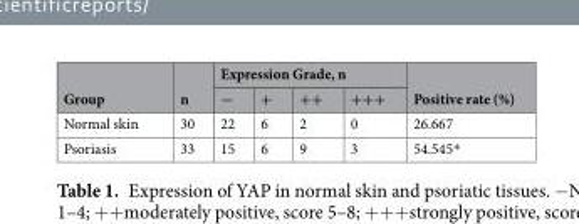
<table><thead><tr><td rowspan="2">Group</td><td rowspan="2">n</td><td colspan="4">Expression Grade, n</td><td rowspan="2">Positive rate (%)</td></tr><tr><td>−</td><td>+</td><td>++</td><td>+++</td></tr></thead><tbody><tr><td>Normal skin</td><td>30</td><td>22</td><td>6</td><td>2</td><td>0</td><td>26.667</td></tr><tr><td>Psoriasis</td><td>33</td><td>15</td><td>6</td><td>9</td><td>3</td><td>54.545*</td></tr></tbody></table>